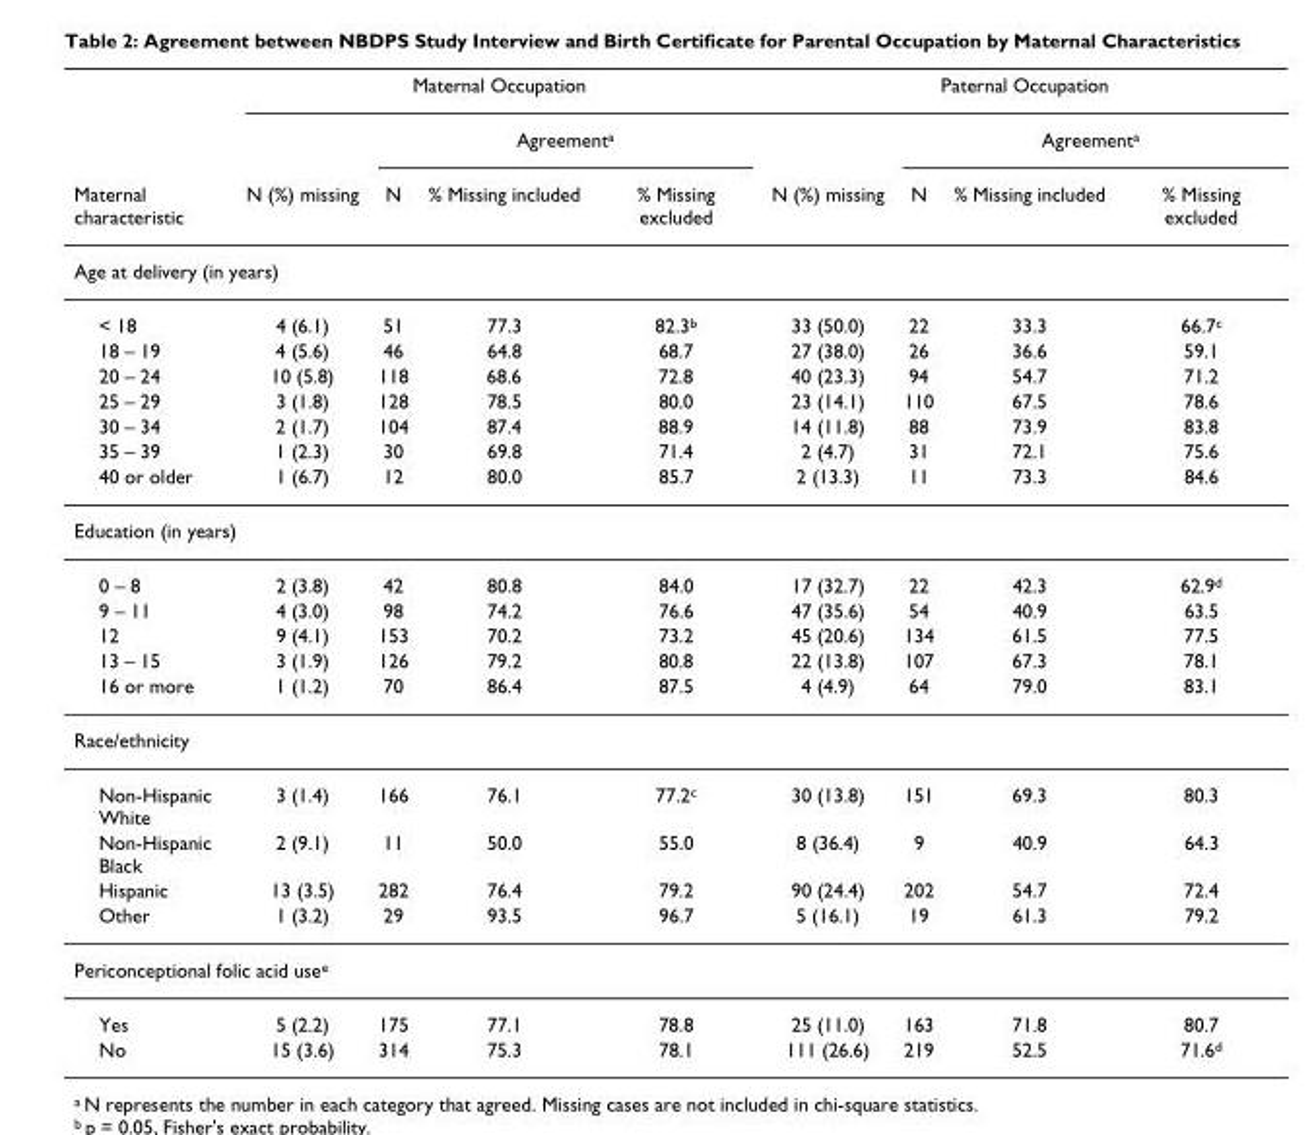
<table><thead><tr><td rowspan="3">Maternal characteristic</td><td colspan="4">Maternal Occupation</td><td colspan="4">Paternal Occupation</td></tr><tr><td rowspan="2">N (%) missing</td><td colspan="3">Agreement<sup>a</sup></td><td rowspan="2">N (%) missing</td><td colspan="3">Agreement<sup>a</sup></td></tr><tr><td>N</td><td>% Missing included</td><td>% Missing excluded</td><td>N</td><td>% Missing included</td><td>% Missing excluded</td></tr></thead><tbody><tr><td colspan="9">Age at delivery (in years)</td></tr><tr><td>&lt; 18</td><td>4 (6.1)</td><td>51</td><td>77.3</td><td>82.3<sup>b</sup></td><td>33 (50.0)</td><td>22</td><td>33.3</td><td>66.7<sup>c</sup></td></tr><tr><td>18 – 19</td><td>4 (5.6)</td><td>46</td><td>64.8</td><td>68.7</td><td>27 (38.0)</td><td>26</td><td>36.6</td><td>59.1</td></tr><tr><td>20 – 24</td><td>10 (5.8)</td><td>118</td><td>68.6</td><td>72.8</td><td>40 (23.3)</td><td>94</td><td>54.7</td><td>71.2</td></tr><tr><td>25 – 29</td><td>3 (1.8)</td><td>128</td><td>78.5</td><td>80.0</td><td>23 (14.1)</td><td>110</td><td>67.5</td><td>78.6</td></tr><tr><td>30 – 34</td><td>2 (1.7)</td><td>104</td><td>87.4</td><td>88.9</td><td>14 (11.8)</td><td>88</td><td>73.9</td><td>83.8</td></tr><tr><td>35 – 39</td><td>1 (2.3)</td><td>30</td><td>69.8</td><td>71.4</td><td>2 (4.7)</td><td>31</td><td>72.1</td><td>75.6</td></tr><tr><td>40 or older</td><td>1 (6.7)</td><td>12</td><td>80.0</td><td>85.7</td><td>2 (13.3)</td><td>11</td><td>73.3</td><td>84.6</td></tr><tr><td colspan="9">Education (in years)</td></tr><tr><td>0 – 8</td><td>2 (3.8)</td><td>42</td><td>80.8</td><td>84.0</td><td>17 (32.7)</td><td>22</td><td>42.3</td><td>62.9<sup>d</sup></td></tr><tr><td>9 – 11</td><td>4 (3.0)</td><td>98</td><td>74.2</td><td>76.6</td><td>47 (35.6)</td><td>54</td><td>40.9</td><td>63.5</td></tr><tr><td>12</td><td>9 (4.1)</td><td>153</td><td>70.2</td><td>73.2</td><td>45 (20.6)</td><td>134</td><td>61.5</td><td>77.5</td></tr><tr><td>13 – 15</td><td>3 (1.9)</td><td>126</td><td>79.2</td><td>80.8</td><td>22 (13.8)</td><td>107</td><td>67.3</td><td>78.1</td></tr><tr><td>16 or more</td><td>1 (1.2)</td><td>70</td><td>86.4</td><td>87.5</td><td>4 (4.9)</td><td>64</td><td>79.0</td><td>83.1</td></tr><tr><td colspan="9">Race/ethnicity</td></tr><tr><td>Non-Hispanic White</td><td>3 (1.4)</td><td>166</td><td>76.1</td><td>77.2<sup>c</sup></td><td>30 (13.8)</td><td>151</td><td>69.3</td><td>80.3</td></tr><tr><td>Non-Hispanic Black</td><td>2 (9.1)</td><td>11</td><td>50.0</td><td>55.0</td><td>8 (36.4)</td><td>9</td><td>40.9</td><td>64.3</td></tr><tr><td>Hispanic</td><td>13 (3.5)</td><td>282</td><td>76.4</td><td>79.2</td><td>90 (24.4)</td><td>202</td><td>54.7</td><td>72.4</td></tr><tr><td>Other</td><td>1 (3.2)</td><td>29</td><td>93.5</td><td>96.7</td><td>5 (16.1)</td><td>19</td><td>61.3</td><td>79.2</td></tr><tr><td colspan="9">Periconceptional folic acid use<sup>e</sup></td></tr><tr><td>Yes</td><td>5 (2.2)</td><td>175</td><td>77.1</td><td>78.8</td><td>25 (11.0)</td><td>163</td><td>71.8</td><td>80.7</td></tr><tr><td>No</td><td>15 (3.6)</td><td>314</td><td>75.3</td><td>78.1</td><td>111 (26.6)</td><td>219</td><td>52.5</td><td>71.6<sup>d</sup></td></tr></tbody></table>